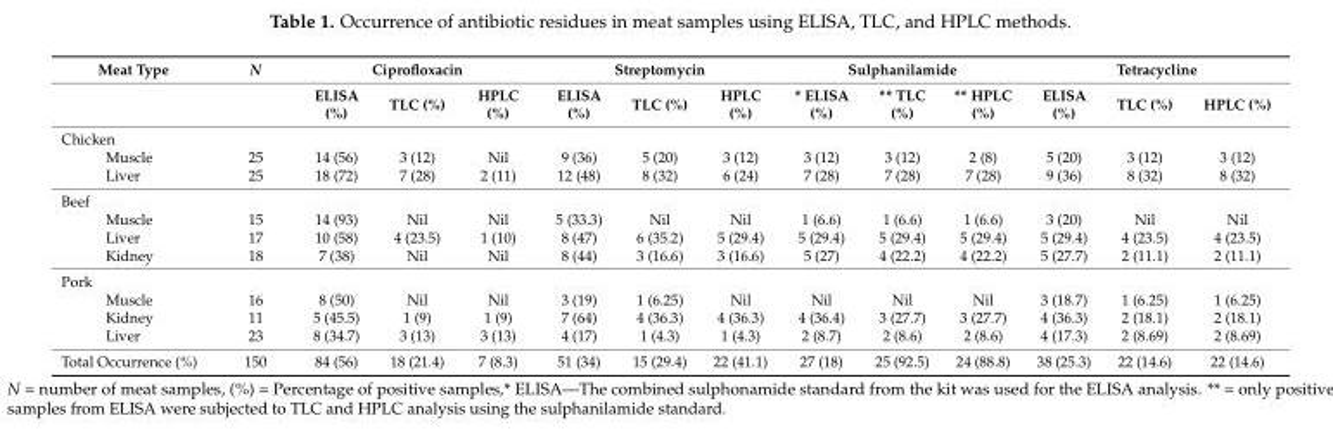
<table><thead><tr><td rowspan="2">Meat Type</td><td rowspan="2">N</td><td colspan="3">Ciprofloxacin</td><td colspan="3">Streptomycin</td><td colspan="3">Sulphanilamide</td><td colspan="3">Tetracycline</td></tr><tr><td>ELISA (%)</td><td>TLC (%)</td><td>HPLC (%)</td><td>ELISA (%)</td><td>TLC (%)</td><td>HPLC (%)</td><td>* ELISA (%)</td><td>** TLC (%)</td><td>** HPLC (%)</td><td>ELISA (%)</td><td>TLC (%)</td><td>HPLC (%)</td></tr></thead><tbody><tr><td colspan="14">Chicken</td></tr><tr><td>Muscle</td><td>25</td><td>14 (56)</td><td>3 (12)</td><td>Nil</td><td>9 (36)</td><td>5 (20)</td><td>3 (12)</td><td>3 (12)</td><td>3 (12)</td><td>2 (8)</td><td>5 (20)</td><td>3 (12)</td><td>3 (12)</td></tr><tr><td>Liver</td><td>25</td><td>18 (72)</td><td>7 (28)</td><td>2 (11)</td><td>12 (48)</td><td>8 (32)</td><td>6 (24)</td><td>7 (28)</td><td>7 (28)</td><td>7 (28)</td><td>9 (36)</td><td>8 (32)</td><td>8 (32)</td></tr><tr><td colspan="14">Beef</td></tr><tr><td>Muscle</td><td>15</td><td>14 (93)</td><td>Nil</td><td>Nil</td><td>5 (33.3)</td><td>Nil</td><td>Nil</td><td>1 (6.6)</td><td>1 (6.6)</td><td>1 (6.6)</td><td>3 (20)</td><td>Nil</td><td>Nil</td></tr><tr><td>Liver</td><td>17</td><td>10 (58)</td><td>4 (23.5)</td><td>1 (10)</td><td>8 (47)</td><td>6 (35.2)</td><td>5 (29.4)</td><td>5 (29.4)</td><td>5 (29.4)</td><td>5 (29.4)</td><td>5 (29.4)</td><td>4 (23.5)</td><td>4 (23.5)</td></tr><tr><td>Kidney</td><td>18</td><td>7 (38)</td><td>Nil</td><td>Nil</td><td>8 (44)</td><td>3 (16.6)</td><td>3 (16.6)</td><td>5 (27)</td><td>4 (22.2)</td><td>4 (22.2)</td><td>5 (27.7)</td><td>2 (11.1)</td><td>2 (11.1)</td></tr><tr><td colspan="14">Pork</td></tr><tr><td>Muscle</td><td>16</td><td>8 (50)</td><td>Nil</td><td>Nil</td><td>3 (19)</td><td>1 (6.25)</td><td>Nil</td><td>Nil</td><td>Nil</td><td>Nil</td><td>3 (18.7)</td><td>1 (6.25)</td><td>1 (6.25)</td></tr><tr><td>Kidney</td><td>11</td><td>5 (45.5)</td><td>1 (9)</td><td>1 (9)</td><td>7 (64)</td><td>4 (36.3)</td><td>4 (36.3)</td><td>4 (36.4)</td><td>3 (27.7)</td><td>3 (27.7)</td><td>4 (36.3)</td><td>2 (18.1)</td><td>2 (18.1)</td></tr><tr><td>Liver</td><td>23</td><td>8 (34.7)</td><td>3 (13)</td><td>3 (13)</td><td>4 (17)</td><td>1 (4.3)</td><td>1 (4.3)</td><td>2 (8.7)</td><td>2 (8.6)</td><td>2 (8.6)</td><td>4 (17.3)</td><td>2 (8.69)</td><td>2 (8.69)</td></tr><tr><td>Total Occurrence (%)</td><td>150</td><td>84 (56)</td><td>18 (21.4)</td><td>7 (8.3)</td><td>51 (34)</td><td>15 (29.4)</td><td>22 (41.1)</td><td>27 (18)</td><td>25 (92.5)</td><td>24 (88.8)</td><td>38 (25.3)</td><td>22 (14.6)</td><td>22 (14.6)</td></tr></tbody></table>